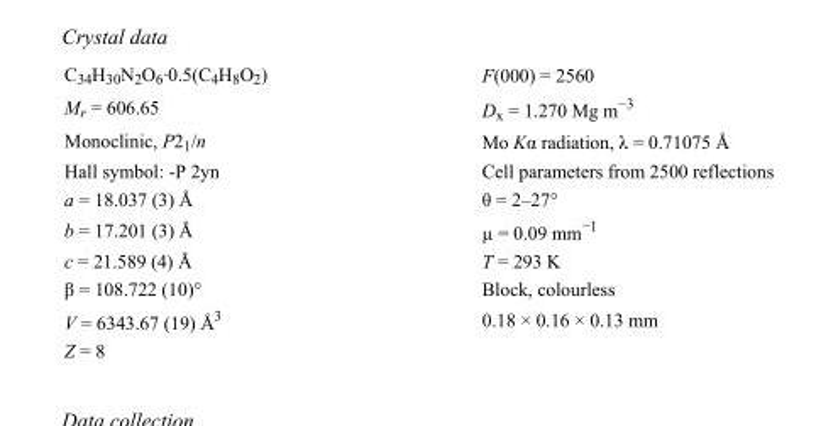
<table><tbody><tr><td>C<sub>34</sub>H<sub>30</sub>N<sub>2</sub>O<sub>6</sub>·0.5(C<sub>4</sub>H<sub>8</sub>O<sub>2</sub>)</td><td>F(000) = 2560</td></tr><tr><td>M<sub>r</sub> = 606.65</td><td>D<sub>x</sub> = 1.270 Mg m<sup>−3</sup></td></tr><tr><td>Monoclinic, P2<sub>1</sub>/n</td><td>Mo Kα radiation, λ = 0.71075 Å</td></tr><tr><td>Hall symbol: -P 2yn</td><td>Cell parameters from 2500 reflections</td></tr><tr><td>a = 18.037 (3) Å</td><td>θ = 2–27°</td></tr><tr><td>b = 17.201 (3) Å</td><td>µ = 0.09 mm<sup>−1</sup></td></tr><tr><td>c = 21.589 (4) Å</td><td>T = 293 K</td></tr><tr><td>β = 108.722 (10)°</td><td>Block, colourless</td></tr><tr><td>V = 6343.67 (19) Å<sup>3</sup></td><td>0.18 × 0.16 × 0.13 mm</td></tr><tr><td>Z = 8</td><td></td></tr></tbody></table>